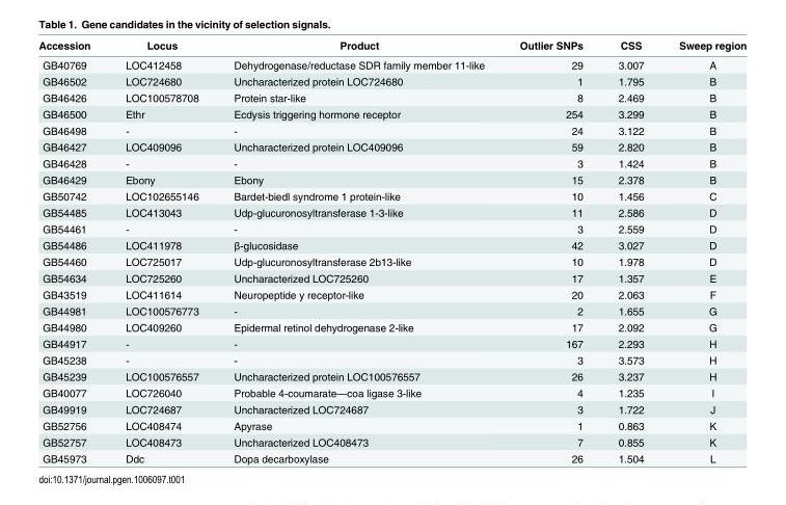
<table><thead><tr><td>Accession</td><td>Locus</td><td>Product</td><td>Outlier SNPs</td><td>CSS</td><td>Sweep region</td></tr></thead><tbody><tr><td>GB40769</td><td>LOC412458</td><td>Dehydrogenase/reductase SDR family member 11-like</td><td>29</td><td>3.007</td><td>A</td></tr><tr><td>GB46502</td><td>LOC724680</td><td>Uncharacterized protein LOC724680</td><td>1</td><td>1.795</td><td>B</td></tr><tr><td>GB46426</td><td>LOC100578708</td><td>Protein star-like</td><td>8</td><td>2.469</td><td>B</td></tr><tr><td>GB46500</td><td>Ethr</td><td>Ecdysis triggering hormone receptor</td><td>254</td><td>3.299</td><td>B</td></tr><tr><td>GB46498</td><td>-</td><td>-</td><td>24</td><td>3.122</td><td>B</td></tr><tr><td>GB46427</td><td>LOC409096</td><td>Uncharacterized protein LOC409096</td><td>59</td><td>2.820</td><td>B</td></tr><tr><td>GB46428</td><td>-</td><td>-</td><td>3</td><td>1.424</td><td>B</td></tr><tr><td>GB46429</td><td>Ebony</td><td>Ebony</td><td>15</td><td>2.378</td><td>B</td></tr><tr><td>GB50742</td><td>LOC102655146</td><td>Bardet-biedl syndrome 1 protein-like</td><td>10</td><td>1.456</td><td>C</td></tr><tr><td>GB54485</td><td>LOC413043</td><td>Udp-glucuronosyltransferase 1-3-like</td><td>11</td><td>2.586</td><td>D</td></tr><tr><td>GB54461</td><td>-</td><td>-</td><td>3</td><td>2.559</td><td>D</td></tr><tr><td>GB54486</td><td>LOC411978</td><td>β-glucosidase</td><td>42</td><td>3.027</td><td>D</td></tr><tr><td>GB54460</td><td>LOC725017</td><td>Udp-glucuronosyltransferase 2b13-like</td><td>10</td><td>1.978</td><td>D</td></tr><tr><td>GB54634</td><td>LOC725260</td><td>Uncharacterized LOC725260</td><td>17</td><td>1.357</td><td>E</td></tr><tr><td>GB43519</td><td>LOC411614</td><td>Neuropeptide y receptor-like</td><td>20</td><td>2.063</td><td>F</td></tr><tr><td>GB44981</td><td>LOC100576773</td><td>-</td><td>2</td><td>1.655</td><td>G</td></tr><tr><td>GB44980</td><td>LOC409260</td><td>Epidermal retinol dehydrogenase 2-like</td><td>17</td><td>2.092</td><td>G</td></tr><tr><td>GB44917</td><td>-</td><td>-</td><td>167</td><td>2.293</td><td>H</td></tr><tr><td>GB45238</td><td>-</td><td>-</td><td>3</td><td>3.573</td><td>H</td></tr><tr><td>GB45239</td><td>LOC100576557</td><td>Uncharacterized protein LOC100576557</td><td>26</td><td>3.237</td><td>H</td></tr><tr><td>GB40077</td><td>LOC726040</td><td>Probable 4-coumarate—coa ligase 3-like</td><td>4</td><td>1.235</td><td>I</td></tr><tr><td>GB49919</td><td>LOC724687</td><td>Uncharacterized LOC724687</td><td>3</td><td>1.722</td><td>J</td></tr><tr><td>GB52756</td><td>LOC408474</td><td>Apyrase</td><td>1</td><td>0.863</td><td>K</td></tr><tr><td>GB52757</td><td>LOC408473</td><td>Uncharacterized LOC408473</td><td>7</td><td>0.855</td><td>K</td></tr><tr><td>GB45973</td><td>Ddc</td><td>Dopa decarboxylase</td><td>26</td><td>1.504</td><td>L</td></tr></tbody></table>